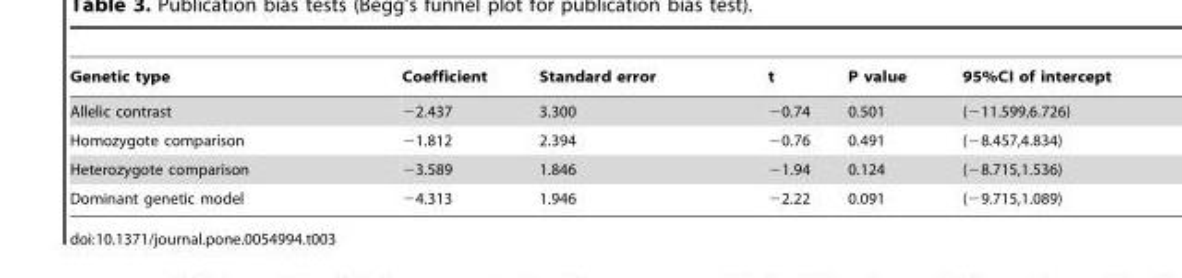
<table><thead><tr><td>Genetic type</td><td>Coefficient</td><td>Standard error</td><td>t</td><td>P value</td><td>95%CI of intercept</td></tr></thead><tbody><tr><td>Allelic contrast</td><td>−2.437</td><td>3.300</td><td>−0.74</td><td>0.501</td><td>(−11.599,6.726)</td></tr><tr><td>Homozygote comparison</td><td>−1.812</td><td>2.394</td><td>−0.76</td><td>0.491</td><td>(−8.457,4.834)</td></tr><tr><td>Heterozygote comparison</td><td>−3.589</td><td>1.846</td><td>−1.94</td><td>0.124</td><td>(−8.715,1.536)</td></tr><tr><td>Dominant genetic model</td><td>−4.313</td><td>1.946</td><td>−2.22</td><td>0.091</td><td>(−9.715,1.089)</td></tr></tbody></table>